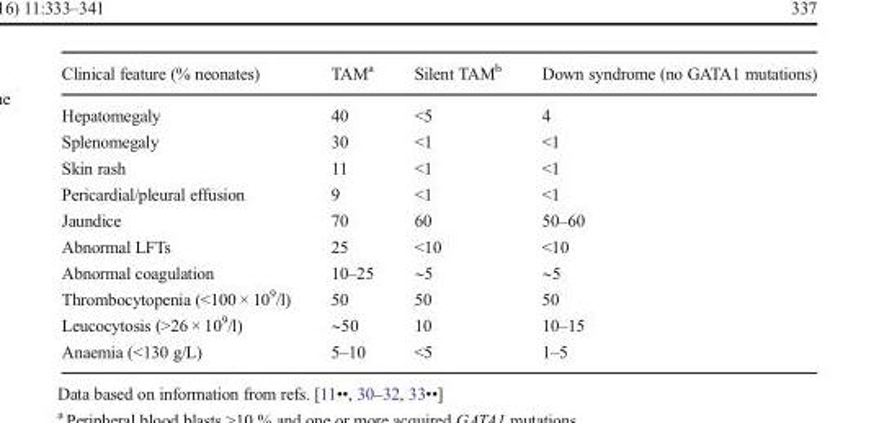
<table><thead><tr><td>Clinical feature (% neonates)</td><td>TAM<sup>a</sup></td><td>Silent TAM<sup>b</sup></td><td>Down syndrome (no GATA1 mutations)</td></tr></thead><tbody><tr><td>Hepatomegaly</td><td>40</td><td>&lt;5</td><td>4</td></tr><tr><td>Splenomegaly</td><td>30</td><td>&lt;1</td><td>&lt;1</td></tr><tr><td>Skin rash</td><td>11</td><td>&lt;1</td><td>&lt;1</td></tr><tr><td>Pericardial/pleural effusion</td><td>9</td><td>&lt;1</td><td>&lt;1</td></tr><tr><td>Jaundice</td><td>70</td><td>60</td><td>50–60</td></tr><tr><td>Abnormal LFTs</td><td>25</td><td>&lt;10</td><td>&lt;10</td></tr><tr><td>Abnormal coagulation</td><td>10–25</td><td>∼5</td><td>∼5</td></tr><tr><td>Thrombocytopenia (&lt;100 × 10<sup>9</sup>/l)</td><td>50</td><td>50</td><td>50</td></tr><tr><td>Leucocytosis (&gt;26 × 10<sup>9</sup>/l)</td><td>∼50</td><td>10</td><td>10–15</td></tr><tr><td>Anaemia (&lt;130 g/L)</td><td>5–10</td><td>&lt;5</td><td>1–5</td></tr></tbody></table>